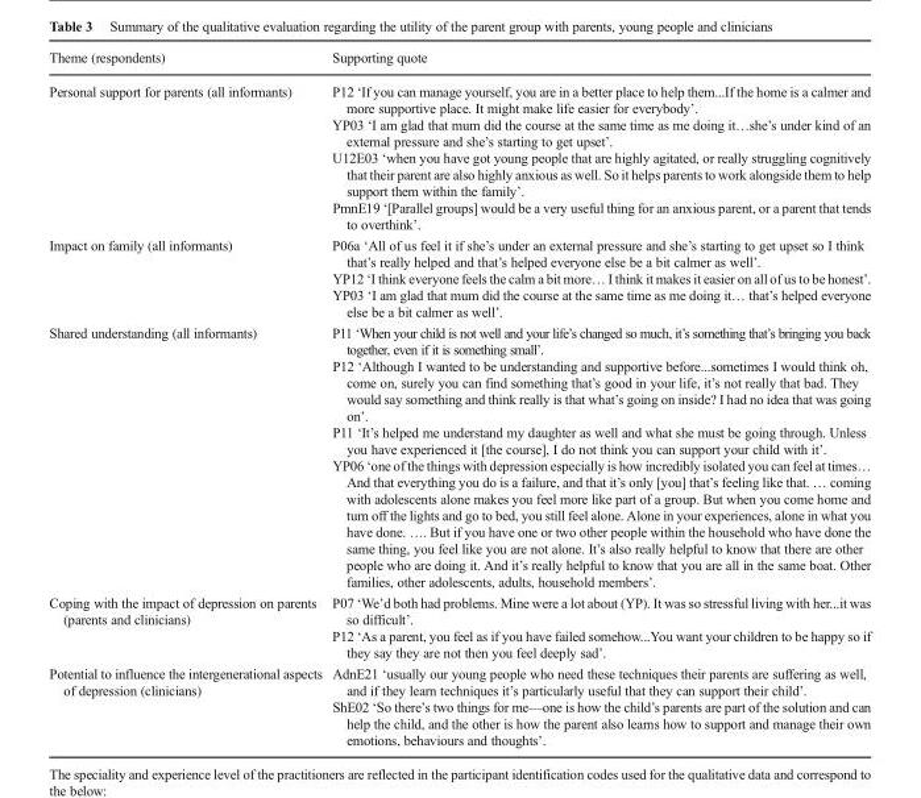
<table><thead><tr><td>Theme (respondents)</td><td>Supporting quote</td></tr></thead><tbody><tr><td>Personal support for parents (all informants)</td><td>P12 ‘If you can manage yourself, you are in a better place to help them...If the home is a calmer and more supportive place. It might make life easier for everybody’. YP03 ‘I am glad that mum did the course at the same time as me doing it…she’s under kind of an external pressure and she’s starting to get upset’. U12E03 ‘when you have got young people that are highly agitated, or really struggling cognitively that their parent are also highly anxious as well. So it helps parents to work alongside them to help support them within the family’. PmnE19 ‘[Parallel groups] would be a very useful thing for an anxious parent, or a parent that tends to overthink’.</td></tr><tr><td>Impact on family (all informants)</td><td>P06a ‘All of us feel it if she’s under an external pressure and she’s starting to get upset so I think that’s really helped and that’s helped everyone else be a bit calmer as well’. YP12 ‘I think everyone feels the calm a bit more… I think it makes it easier on all of us to be honest’. YP03 ‘I am glad that mum did the course at the same time as me doing it… that’s helped everyone else be a bit calmer as well’.</td></tr><tr><td>Shared understanding (all informants)</td><td>P11 ‘When your child is not well and your life’s changed so much, it’s something that’s bringing you back together, even if it is something small’. P12 ‘Although I wanted to be understanding and supportive before...sometimes I would think oh, come on, surely you can find something that’s good in your life, it’s not really that bad. They would say something and think really is that what’s going on inside? I had no idea that was going on’. P11 ‘It’s helped me understand my daughter as well and what she must be going through. Unless you have experienced it [the course], I do not think you can support your child with it’. YP06 ‘one of the things with depression especially is how incredibly isolated you can feel at times… And that everything you do is a failure, and that it’s only [you] that’s feeling like that. … coming with adolescents alone makes you feel more like part of a group. But when you come home and turn off the lights and go to bed, you still feel alone. Alone in your experiences, alone in what you have done. …. But if you have one or two other people within the household who have done the same thing, you feel like you are not alone. It’s also really helpful to know that there are other people who are doing it. And it’s really helpful to know that you are all in the same boat. Other families, other adolescents, adults, household members’.</td></tr><tr><td>Coping with the impact of depression on parents (parents and clinicians)</td><td>P07 ‘We’d both had problems. Mine were a lot about (YP). It was so stressful living with her...it was so difficult’. P12 ‘As a parent, you feel as if you have failed somehow...You want your children to be happy so if they say they are not then you feel deeply sad’.</td></tr><tr><td>Potential to influence the intergenerational aspects of depression (clinicians)</td><td>AdnE21 ‘usually our young people who need these techniques their parents are suffering as well, and if they learn techniques it’s particularly useful that they can support their child’. ShE02 ‘So there’s two things for me—one is how the child’s parents are part of the solution and can help the child, and the other is how the parent also learns how to support and manage their own emotions, behaviours and thoughts’.</td></tr></tbody></table>